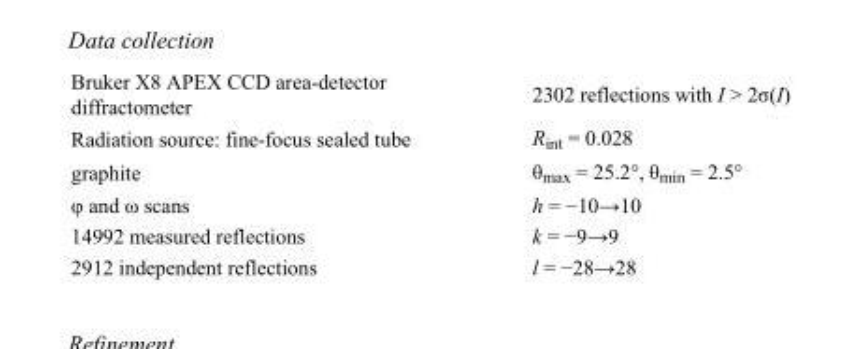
<table><tbody><tr><td>Bruker X8 APEX CCD area-detector diffractometer</td><td>2302 reflections with I &gt; 2σ(I)</td></tr><tr><td>Radiation source: fine-focus sealed tube</td><td>R<sub>int</sub> = 0.028</td></tr><tr><td>graphite</td><td>θ<sub>max</sub> = 25.2°, θ<sub>min</sub> = 2.5°</td></tr><tr><td>φ and ω scans</td><td>h = −10→10</td></tr><tr><td>14992 measured reflections</td><td>k = −9→9</td></tr><tr><td>2912 independent reflections</td><td>l = −28→28</td></tr></tbody></table>